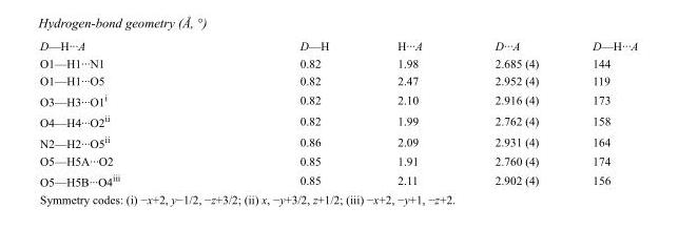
<table><tbody><tr><td>D—H···A</td><td>D—H</td><td>H···A</td><td>D···A</td><td>D—H···A</td></tr><tr><td>O1—H1···N1</td><td>0.82</td><td>1.98</td><td>2.685 (4)</td><td>144</td></tr><tr><td>O1—H1···O5</td><td>0.82</td><td>2.47</td><td>2.952 (4)</td><td>119</td></tr><tr><td>O3—H3···O1<sup>i</sup></td><td>0.82</td><td>2.10</td><td>2.916 (4)</td><td>173</td></tr><tr><td>O4—H4···O2<sup>ii</sup></td><td>0.82</td><td>1.99</td><td>2.762 (4)</td><td>158</td></tr><tr><td>N2—H2···O5<sup>ii</sup></td><td>0.86</td><td>2.09</td><td>2.931 (4)</td><td>164</td></tr><tr><td>O5—H5A···O2</td><td>0.85</td><td>1.91</td><td>2.760 (4)</td><td>174</td></tr><tr><td>O5—H5B···O4<sup>iii</sup></td><td>0.85</td><td>2.11</td><td>2.902 (4)</td><td>156</td></tr></tbody></table>